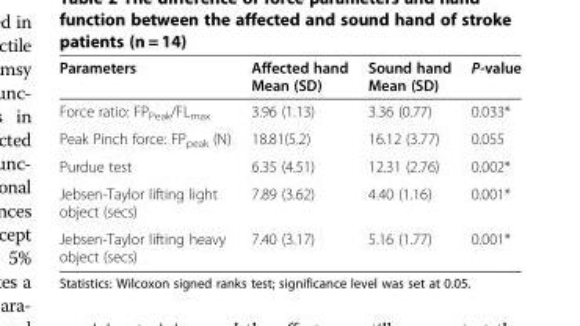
<table><thead><tr><td>Parameters</td><td>Affected hand Mean (SD)</td><td>Sound hand Mean (SD)</td><td>P-value</td></tr></thead><tbody><tr><td>Force ratio: FP<sub>Peak</sub>/FL<sub>max</sub></td><td>3.96 (1.13)</td><td>3.36 (0.77)</td><td>0.033*</td></tr><tr><td>Peak Pinch force: FP<sub>peak</sub> (N)</td><td>18.81(5.2)</td><td>16.12 (3.77)</td><td>0.055</td></tr><tr><td>Purdue test</td><td>6.35 (4.51)</td><td>12.31 (2.76)</td><td>0.002*</td></tr><tr><td>Jebsen-Taylor lifting light object (secs)</td><td>7.89 (3.62)</td><td>4.40 (1.16)</td><td>0.001*</td></tr><tr><td>Jebsen-Taylor lifting heavy object (secs)</td><td>7.40 (3.17)</td><td>5.16 (1.77)</td><td>0.001*</td></tr></tbody></table>